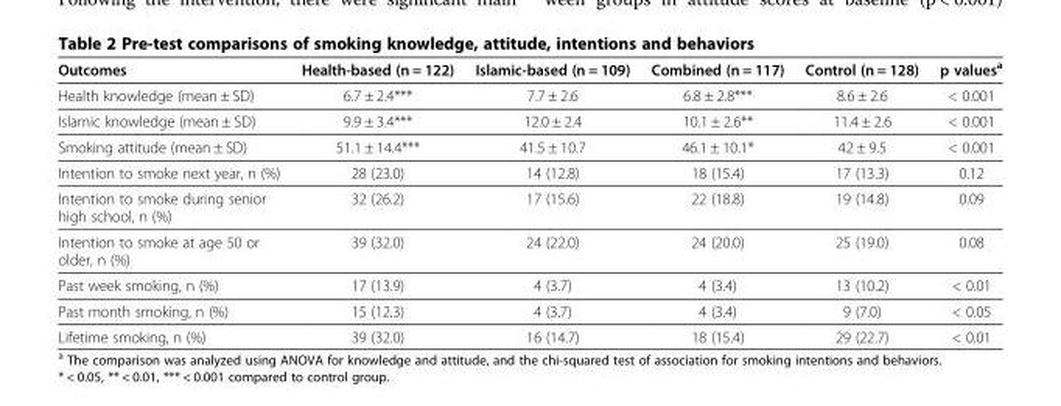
<table><thead><tr><td>Outcomes</td><td>Health-based (n = 122)</td><td>Islamic-based (n = 109)</td><td>Combined (n = 117)</td><td>Control (n = 128)</td><td>p values<sup>a</sup></td></tr></thead><tbody><tr><td>Health knowledge (mean ± SD)</td><td>6.7 ± 2.4***</td><td>7.7 ± 2.6</td><td>6.8 ± 2.8***</td><td>8.6 ± 2.6</td><td>&lt; 0.001</td></tr><tr><td>Islamic knowledge (mean ± SD)</td><td>9.9 ± 3.4***</td><td>12.0 ± 2.4</td><td>10.1 ± 2.6**</td><td>11.4 ± 2.6</td><td>&lt; 0.001</td></tr><tr><td>Smoking attitude (mean ± SD)</td><td>51.1 ± 14.4***</td><td>41.5 ± 10.7</td><td>46.1 ± 10.1*</td><td>42 ± 9.5</td><td>&lt; 0.001</td></tr><tr><td>Intention to smoke next year, n (%)</td><td>28 (23.0)</td><td>14 (12.8)</td><td>18 (15.4)</td><td>17 (13.3)</td><td>0.12</td></tr><tr><td>Intention to smoke during senior high school, n (%)</td><td>32 (26.2)</td><td>17 (15.6)</td><td>22 (18.8)</td><td>19 (14.8)</td><td>0.09</td></tr><tr><td>Intention to smoke at age 50 or older, n (%)</td><td>39 (32.0)</td><td>24 (22.0)</td><td>24 (20.0)</td><td>25 (19.0)</td><td>0.08</td></tr><tr><td>Past week smoking, n (%)</td><td>17 (13.9)</td><td>4 (3.7)</td><td>4 (3.4)</td><td>13 (10.2)</td><td>&lt; 0.01</td></tr><tr><td>Past month smoking, n (%)</td><td>15 (12.3)</td><td>4 (3.7)</td><td>4 (3.4)</td><td>9 (7.0)</td><td>&lt; 0.05</td></tr><tr><td>Lifetime smoking, n (%)</td><td>39 (32.0)</td><td>16 (14.7)</td><td>18 (15.4)</td><td>29 (22.7)</td><td>&lt; 0.01</td></tr></tbody></table>